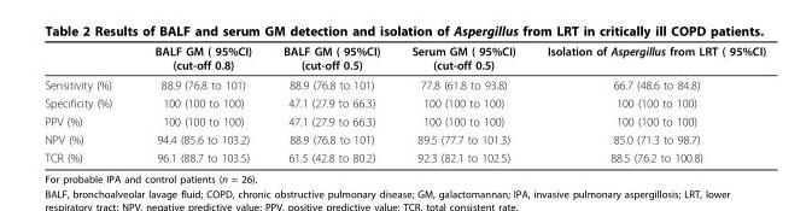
<table><thead><tr><td></td><td>BALF GM ( 95%CI) (cut-off 0.8)</td><td>BALF GM ( 95%CI) (cut-off 0.5)</td><td>Serum GM ( 95%CI) (cut-off 0.5)</td><td>Isolation of Aspergillus from LRT ( 95%CI)</td></tr></thead><tbody><tr><td>Sensitivity (%)</td><td>88.9 (76.8 to 101)</td><td>88.9 (76.8 to 101)</td><td>77.8 (61.8 to 93.8)</td><td>66.7 (48.6 to 84.8)</td></tr><tr><td>Specificity (%)</td><td>100 (100 to 100)</td><td>47.1 (27.9 to 66.3)</td><td>100 (100 to 100)</td><td>100 (100 to 100)</td></tr><tr><td>PPV (%)</td><td>100 (100 to 100)</td><td>47.1 (27.9 to 66.3)</td><td>100 (100 to 100)</td><td>100 (100 to 100)</td></tr><tr><td>NPV (%)</td><td>94.4 (85.6 to 103.2)</td><td>88.9 (76.8 to 101)</td><td>89.5 (77.7 to 101.3)</td><td>85.0 (71.3 to 98.7)</td></tr><tr><td>TCR (%)</td><td>96.1 (88.7 to 103.5)</td><td>61.5 (42.8 to 80.2)</td><td>92.3 (82.1 to 102.5)</td><td>88.5 (76.2 to 100.8)</td></tr></tbody></table>